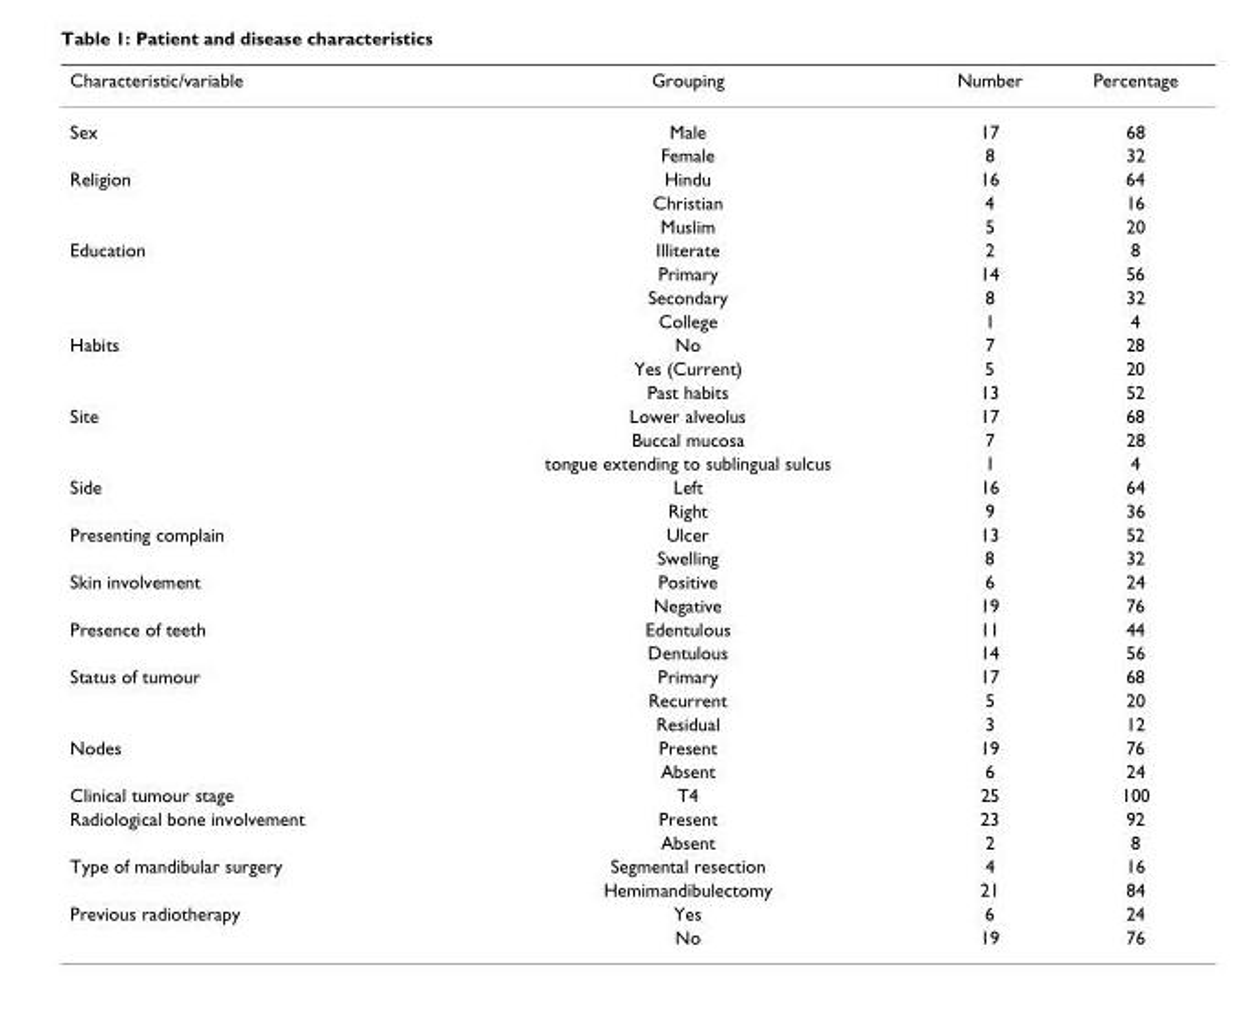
<table><thead><tr><td>Characteristic/variable</td><td>Grouping</td><td>Number</td><td>Percentage</td></tr></thead><tbody><tr><td rowspan="2">Sex</td><td>Male</td><td>17</td><td>68</td></tr><tr><td>Female</td><td>8</td><td>32</td></tr><tr><td rowspan="3">Religion</td><td>Hindu</td><td>16</td><td>64</td></tr><tr><td>Christian</td><td>4</td><td>16</td></tr><tr><td>Muslim</td><td>5</td><td>20</td></tr><tr><td rowspan="4">Education</td><td>Illiterate</td><td>2</td><td>8</td></tr><tr><td>Primary</td><td>14</td><td>56</td></tr><tr><td>Secondary</td><td>8</td><td>32</td></tr><tr><td>College</td><td>1</td><td>4</td></tr><tr><td rowspan="3">Habits</td><td>No</td><td>7</td><td>28</td></tr><tr><td>Yes (Current)</td><td>5</td><td>20</td></tr><tr><td>Past habits</td><td>13</td><td>52</td></tr><tr><td rowspan="3">Site</td><td>Lower alveolus</td><td>17</td><td>68</td></tr><tr><td>Buccal mucosa</td><td>7</td><td>28</td></tr><tr><td>tongue extending to sublingual sulcus</td><td>1</td><td>4</td></tr><tr><td rowspan="2">Side</td><td>Left</td><td>16</td><td>64</td></tr><tr><td>Right</td><td>9</td><td>36</td></tr><tr><td rowspan="2">Presenting complain</td><td>Ulcer</td><td>13</td><td>52</td></tr><tr><td>Swelling</td><td>8</td><td>32</td></tr><tr><td rowspan="2">Skin involvement</td><td>Positive</td><td>6</td><td>24</td></tr><tr><td>Negative</td><td>19</td><td>76</td></tr><tr><td rowspan="2">Presence of teeth</td><td>Edentulous</td><td>11</td><td>44</td></tr><tr><td>Dentulous</td><td>14</td><td>56</td></tr><tr><td rowspan="3">Status of tumour</td><td>Primary</td><td>17</td><td>68</td></tr><tr><td>Recurrent</td><td>5</td><td>20</td></tr><tr><td>Residual</td><td>3</td><td>12</td></tr><tr><td rowspan="2">Nodes</td><td>Present</td><td>19</td><td>76</td></tr><tr><td>Absent</td><td>6</td><td>24</td></tr><tr><td>Clinical tumour stage</td><td>T4</td><td>25</td><td>100</td></tr><tr><td rowspan="2">Radiological bone involvement</td><td>Present</td><td>23</td><td>92</td></tr><tr><td>Absent</td><td>2</td><td>8</td></tr><tr><td rowspan="2">Type of mandibular surgery</td><td>Segmental resection</td><td>4</td><td>16</td></tr><tr><td>Hemimandibulectomy</td><td>21</td><td>84</td></tr><tr><td rowspan="2">Previous radiotherapy</td><td>Yes</td><td>6</td><td>24</td></tr><tr><td>No</td><td>19</td><td>76</td></tr></tbody></table>